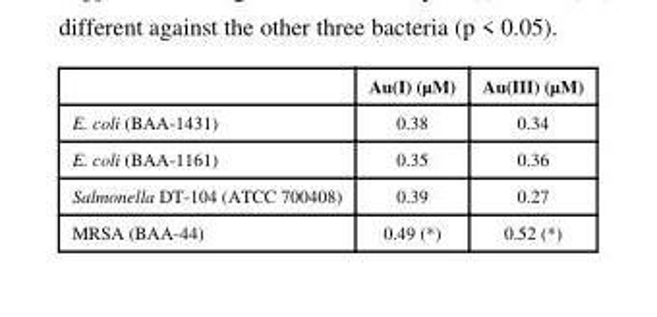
<table><thead><tr><td></td><td>Au(I) (µM)</td><td>Au(III) (µM)</td></tr></thead><tbody><tr><td>E. coli (BAA-1431)</td><td>0.38</td><td>0.34</td></tr><tr><td>E. coli (BAA-1161)</td><td>0.35</td><td>0.36</td></tr><tr><td>Salmonella DT-104 (ATCC 700408)</td><td>0.39</td><td>0.27</td></tr><tr><td>MRSA (BAA-44)</td><td>0.49 (*)</td><td>0.52 (*)</td></tr></tbody></table>